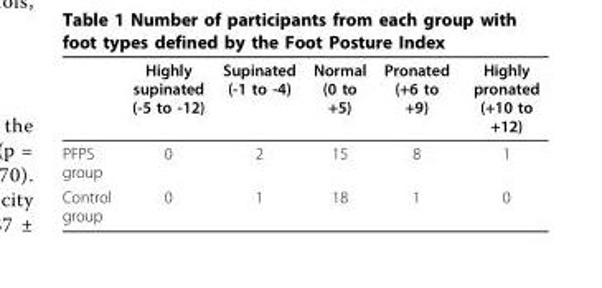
<table><thead><tr><td></td><td>Highly supinated (-5 to -12)</td><td>Supinated (-1 to -4)</td><td>Normal (0 to +5)</td><td>Pronated (+6 to +9)</td><td>Highly pronated (+10 to +12)</td></tr></thead><tbody><tr><td>PFPS group</td><td>0</td><td>2</td><td>15</td><td>8</td><td>1</td></tr><tr><td>Control group</td><td>0</td><td>1</td><td>18</td><td>1</td><td>0</td></tr></tbody></table>